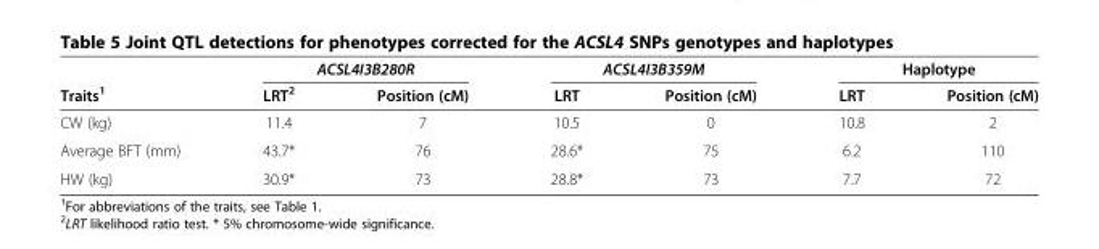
<table><thead><tr><td rowspan="2">Traits<sup>1</sup></td><td colspan="2">ACSL4I3B280R</td><td colspan="2">ACSL4I3B359M</td><td colspan="2">Haplotype</td></tr><tr><td>LRT<sup>2</sup></td><td>Position (cM)</td><td>LRT</td><td>Position (cM)</td><td>LRT</td><td>Position (cM)</td></tr></thead><tbody><tr><td>CW (kg)</td><td>11.4</td><td>7</td><td>10.5</td><td>0</td><td>10.8</td><td>2</td></tr><tr><td>Average BFT (mm)</td><td>43.7*</td><td>76</td><td>28.6*</td><td>75</td><td>6.2</td><td>110</td></tr><tr><td>HW (kg)</td><td>30.9*</td><td>73</td><td>28.8*</td><td>73</td><td>7.7</td><td>72</td></tr></tbody></table>